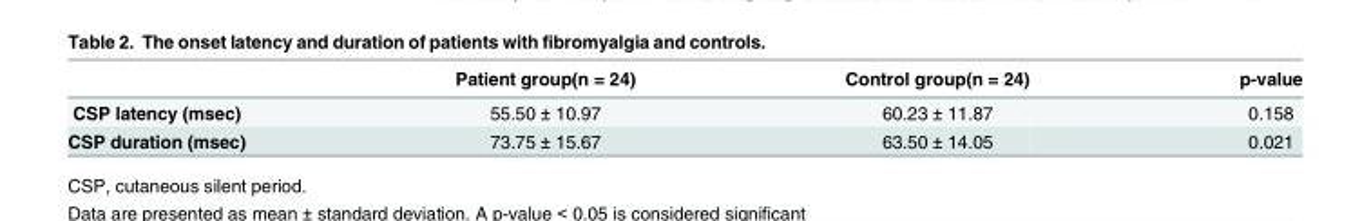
<table><thead><tr><td></td><td>Patient group(n = 24)</td><td>Control group(n = 24)</td><td>p-value</td></tr></thead><tbody><tr><td>CSP latency (msec)</td><td>55.50 ± 10.97</td><td>60.23 ± 11.87</td><td>0.158</td></tr><tr><td>CSP duration (msec)</td><td>73.75 ± 15.67</td><td>63.50 ± 14.05</td><td>0.021</td></tr></tbody></table>